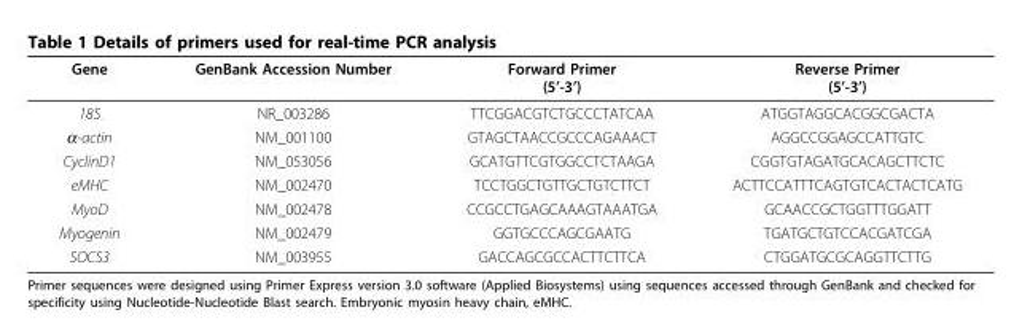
<table><thead><tr><td>Gene</td><td>GenBank Accession Number</td><td>Forward Primer (5’-3’)</td><td>Reverse Primer (5’-3’)</td></tr></thead><tbody><tr><td>18S</td><td>NR_003286</td><td>TTCGGACGTCTGCCCTATCAA</td><td>ATGGTAGGCACGGCGACTA</td></tr><tr><td>α-actin</td><td>NM_001100</td><td>GTAGCTAACCGCCCAGAAACT</td><td>AGGCCGGAGCCATTGTC</td></tr><tr><td>CyclinD1</td><td>NM_053056</td><td>GCATGTTCGTGGCCTCTAAGA</td><td>CGGTGTAGATGCACAGCTTCTC</td></tr><tr><td>eMHC</td><td>NM_002470</td><td>TCCTGGCTGTTGCTGTCTTCT</td><td>ACTTCCATTTCAGTGTCACTACTCATG</td></tr><tr><td>MyoD</td><td>NM_002478</td><td>CCGCCTGAGCAAAGTAAATGA</td><td>GCAACCGCTGGTTTGGATT</td></tr><tr><td>Myogenin</td><td>NM_002479</td><td>GGTGCCCAGCGAATG</td><td>TGATGCTGTCCACGATCGA</td></tr><tr><td>SOCS3</td><td>NM_003955</td><td>GACCAGCGCCACTTCTTCA</td><td>CTGGATGCGCAGGTTCTTG</td></tr></tbody></table>